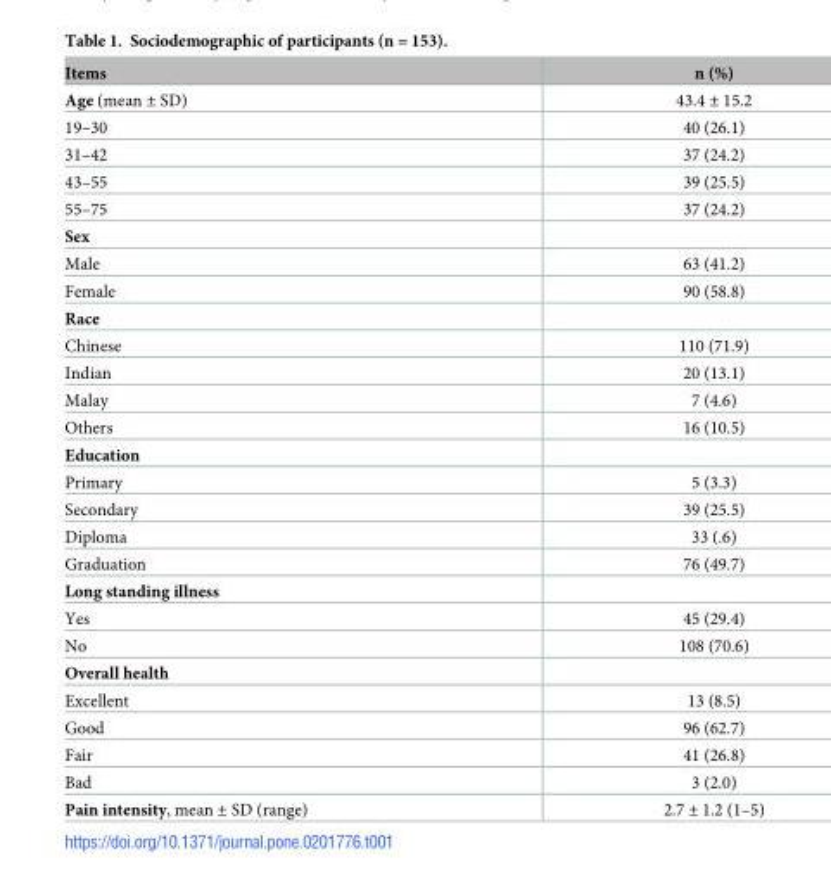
<table><thead><tr><td>Items</td><td>n (%)</td></tr></thead><tbody><tr><td>Age (mean ± SD)</td><td>43.4 ± 15.2</td></tr><tr><td>19–30</td><td>40 (26.1)</td></tr><tr><td>31–42</td><td>37 (24.2)</td></tr><tr><td>43–55</td><td>39 (25.5)</td></tr><tr><td>55–75</td><td>37 (24.2)</td></tr><tr><td colspan="2">Sex</td></tr><tr><td>Male</td><td>63 (41.2)</td></tr><tr><td>Female</td><td>90 (58.8)</td></tr><tr><td colspan="2">Race</td></tr><tr><td>Chinese</td><td>110 (71.9)</td></tr><tr><td>Indian</td><td>20 (13.1)</td></tr><tr><td>Malay</td><td>7 (4.6)</td></tr><tr><td>Others</td><td>16 (10.5)</td></tr><tr><td colspan="2">Education</td></tr><tr><td>Primary</td><td>5 (3.3)</td></tr><tr><td>Secondary</td><td>39 (25.5)</td></tr><tr><td>Diploma</td><td>33 (.6)</td></tr><tr><td>Graduation</td><td>76 (49.7)</td></tr><tr><td colspan="2">Long standing illness</td></tr><tr><td>Yes</td><td>45 (29.4)</td></tr><tr><td>No</td><td>108 (70.6)</td></tr><tr><td colspan="2">Overall health</td></tr><tr><td>Excellent</td><td>13 (8.5)</td></tr><tr><td>Good</td><td>96 (62.7)</td></tr><tr><td>Fair</td><td>41 (26.8)</td></tr><tr><td>Bad</td><td>3 (2.0)</td></tr><tr><td>Pain intensity, mean ± SD (range)</td><td>2.7 ± 1.2 (1–5)</td></tr></tbody></table>